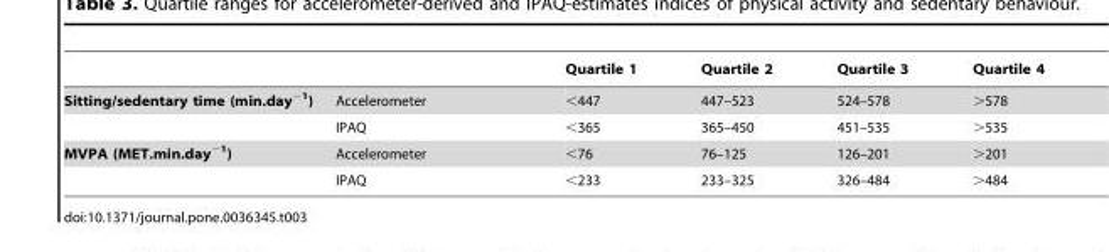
<table><thead><tr><td></td><td></td><td>Quartile 1</td><td>Quartile 2</td><td>Quartile 3</td><td>Quartile 4</td></tr></thead><tbody><tr><td rowspan="2">Sitting/sedentary time (min.day<sup>−1</sup>)</td><td>Accelerometer</td><td>&lt;447</td><td>447–523</td><td>524–578</td><td>&gt;578</td></tr><tr><td>IPAQ</td><td>&lt;365</td><td>365–450</td><td>451–535</td><td>&gt;535</td></tr><tr><td rowspan="2">MVPA (MET.min.day<sup>−1</sup>)</td><td>Accelerometer</td><td>&lt;76</td><td>76–125</td><td>126–201</td><td>&gt;201</td></tr><tr><td>IPAQ</td><td>&lt;233</td><td>233–325</td><td>326–484</td><td>&gt;484</td></tr></tbody></table>